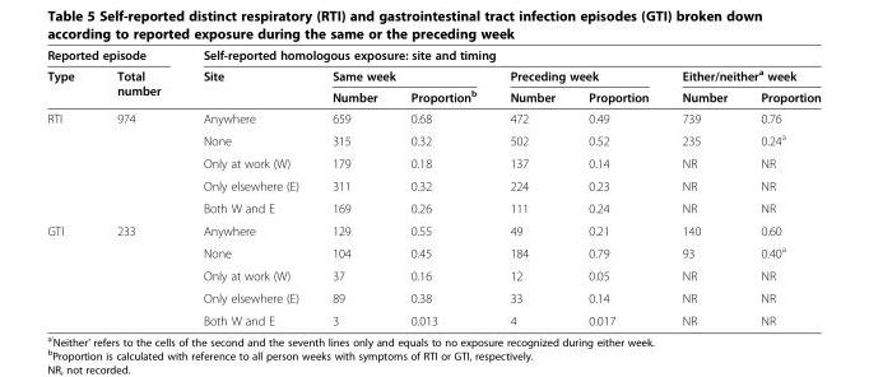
<table><thead><tr><td colspan="2">Reported episode</td><td colspan="7">Self-reported homologous exposure: site and timing</td></tr><tr><td rowspan="2">Type</td><td rowspan="2">Total number</td><td rowspan="2">Site</td><td colspan="2">Same week</td><td colspan="2">Preceding week</td><td colspan="2">Either/neither<sup>a</sup> week</td></tr><tr><td>Number</td><td>Proportion<sup>b</sup></td><td>Number</td><td>Proportion</td><td>Number</td><td>Proportion</td></tr></thead><tbody><tr><td rowspan="5">RTI</td><td>974</td><td>Anywhere</td><td>659</td><td>0.68</td><td>472</td><td>0.49</td><td>739</td><td>0.76</td></tr><tr><td></td><td>None</td><td>315</td><td>0.32</td><td>502</td><td>0.52</td><td>235</td><td>0.24<sup>a</sup></td></tr><tr><td></td><td>Only at work (W)</td><td>179</td><td>0.18</td><td>137</td><td>0.14</td><td>NR</td><td>NR</td></tr><tr><td></td><td>Only elsewhere (E)</td><td>311</td><td>0.32</td><td>224</td><td>0.23</td><td>NR</td><td>NR</td></tr><tr><td></td><td>Both W and E</td><td>169</td><td>0.26</td><td>111</td><td>0.24</td><td>NR</td><td>NR</td></tr><tr><td rowspan="5">GTI</td><td>233</td><td>Anywhere</td><td>129</td><td>0.55</td><td>49</td><td>0.21</td><td>140</td><td>0.60</td></tr><tr><td></td><td>None</td><td>104</td><td>0.45</td><td>184</td><td>0.79</td><td>93</td><td>0.40<sup>a</sup></td></tr><tr><td></td><td>Only at work (W)</td><td>37</td><td>0.16</td><td>12</td><td>0.05</td><td>NR</td><td>NR</td></tr><tr><td></td><td>Only elsewhere (E)</td><td>89</td><td>0.38</td><td>33</td><td>0.14</td><td>NR</td><td>NR</td></tr><tr><td></td><td>Both W and E</td><td>3</td><td>0.013</td><td>4</td><td>0.017</td><td>NR</td><td>NR</td></tr></tbody></table>